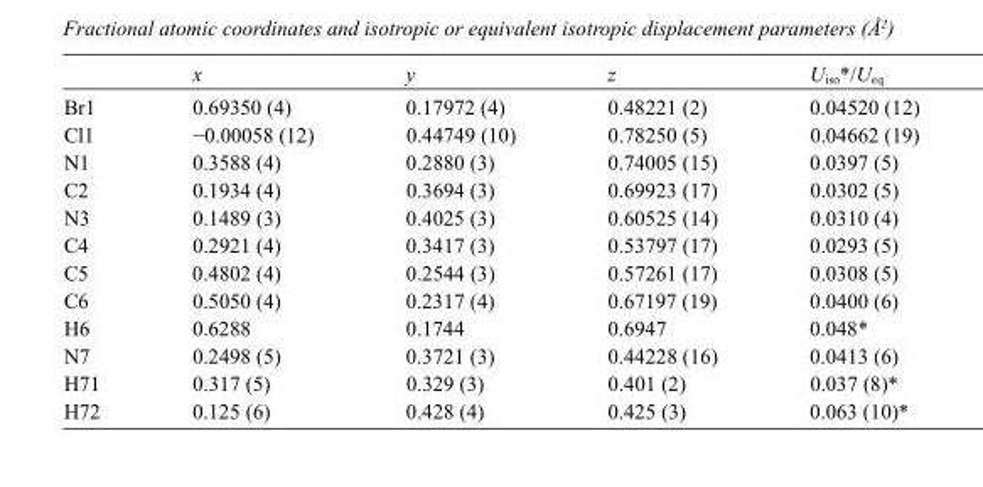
<table><thead><tr><td></td><td>x</td><td>y</td><td>z</td><td>U<sub>iso</sub>*/U<sub>eq</sub></td></tr></thead><tbody><tr><td>Br1</td><td>0.69350 (4)</td><td>0.17972 (4)</td><td>0.48221 (2)</td><td>0.04520 (12)</td></tr><tr><td>Cl1</td><td>−0.00058 (12)</td><td>0.44749 (10)</td><td>0.78250 (5)</td><td>0.04662 (19)</td></tr><tr><td>N1</td><td>0.3588 (4)</td><td>0.2880 (3)</td><td>0.74005 (15)</td><td>0.0397 (5)</td></tr><tr><td>C2</td><td>0.1934 (4)</td><td>0.3694 (3)</td><td>0.69923 (17)</td><td>0.0302 (5)</td></tr><tr><td>N3</td><td>0.1489 (3)</td><td>0.4025 (3)</td><td>0.60525 (14)</td><td>0.0310 (4)</td></tr><tr><td>C4</td><td>0.2921 (4)</td><td>0.3417 (3)</td><td>0.53797 (17)</td><td>0.0293 (5)</td></tr><tr><td>C5</td><td>0.4802 (4)</td><td>0.2544 (3)</td><td>0.57261 (17)</td><td>0.0308 (5)</td></tr><tr><td>C6</td><td>0.5050 (4)</td><td>0.2317 (4)</td><td>0.67197 (19)</td><td>0.0400 (6)</td></tr><tr><td>H6</td><td>0.6288</td><td>0.1744</td><td>0.6947</td><td>0.048*</td></tr><tr><td>N7</td><td>0.2498 (5)</td><td>0.3721 (3)</td><td>0.44228 (16)</td><td>0.0413 (6)</td></tr><tr><td>H71</td><td>0.317 (5)</td><td>0.329 (3)</td><td>0.401 (2)</td><td>0.037 (8)*</td></tr><tr><td>H72</td><td>0.125 (6)</td><td>0.428 (4)</td><td>0.425 (3)</td><td>0.063 (10)*</td></tr></tbody></table>